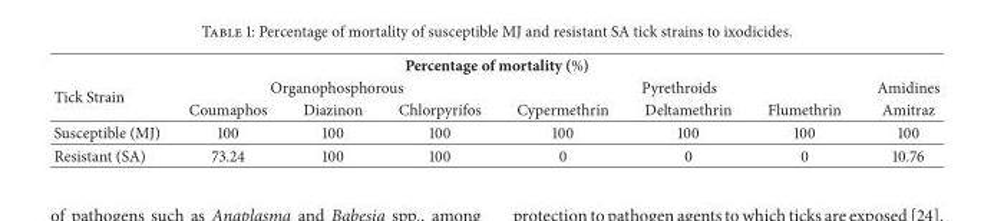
<table><thead><tr><td colspan="8">Percentage of mortality (%)</td></tr><tr><td rowspan="2">Tick Strain</td><td colspan="3">Organophosphorous</td><td colspan="3">Pyrethroids</td><td rowspan="2">Amidines Amitraz</td></tr><tr><td>Coumaphos</td><td>Diazinon</td><td>Chlorpyrifos</td><td>Cypermethrin</td><td>Deltamethrin</td><td>Flumethrin</td></tr></thead><tbody><tr><td>Susceptible (MJ)</td><td>100</td><td>100</td><td>100</td><td>100</td><td>100</td><td>100</td><td>100</td></tr><tr><td>Resistant (SA)</td><td>73.24</td><td>100</td><td>100</td><td>0</td><td>0</td><td>0</td><td>10.76</td></tr></tbody></table>